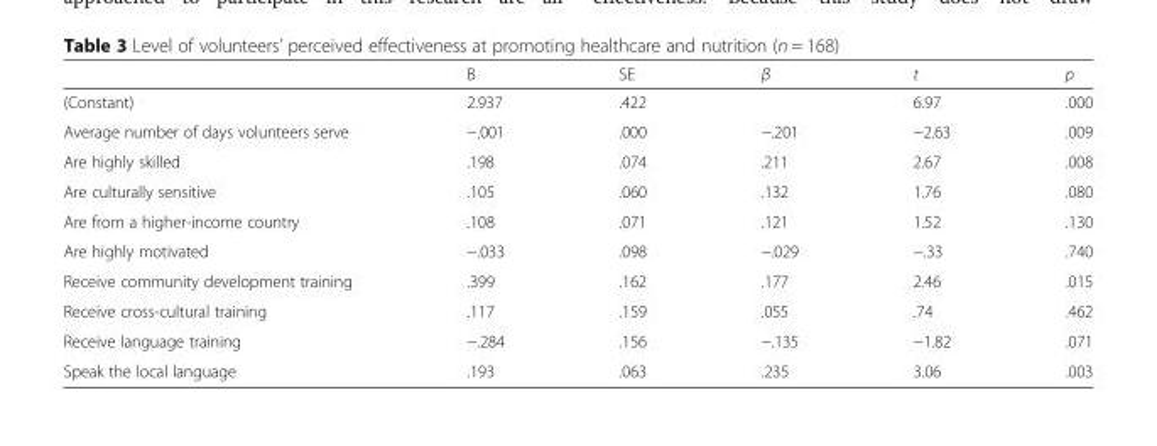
<table><thead><tr><td></td><td>B</td><td>SE</td><td>β</td><td>t</td><td>p</td></tr></thead><tbody><tr><td>(Constant)</td><td>2.937</td><td>.422</td><td></td><td>6.97</td><td>.000</td></tr><tr><td>Average number of days volunteers serve</td><td>−.001</td><td>.000</td><td>−.201</td><td>−2.63</td><td>.009</td></tr><tr><td>Are highly skilled</td><td>.198</td><td>.074</td><td>.211</td><td>2.67</td><td>.008</td></tr><tr><td>Are culturally sensitive</td><td>.105</td><td>.060</td><td>.132</td><td>1.76</td><td>.080</td></tr><tr><td>Are from a higher-income country</td><td>.108</td><td>.071</td><td>.121</td><td>1.52</td><td>.130</td></tr><tr><td>Are highly motivated</td><td>−.033</td><td>.098</td><td>−.029</td><td>−.33</td><td>.740</td></tr><tr><td>Receive community development training</td><td>.399</td><td>.162</td><td>.177</td><td>2.46</td><td>.015</td></tr><tr><td>Receive cross-cultural training</td><td>.117</td><td>.159</td><td>.055</td><td>.74</td><td>.462</td></tr><tr><td>Receive language training</td><td>−.284</td><td>.156</td><td>−.135</td><td>−1.82</td><td>.071</td></tr><tr><td>Speak the local language</td><td>.193</td><td>.063</td><td>.235</td><td>3.06</td><td>.003</td></tr></tbody></table>